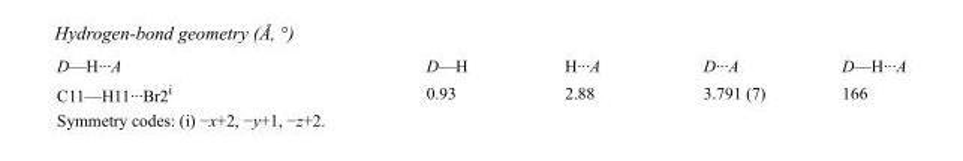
<table><tbody><tr><td>D—H···A</td><td>D—H</td><td>H···A</td><td>D···A</td><td>D—H···A</td></tr><tr><td>C11—H11···Br2<sup>i</sup></td><td>0.93</td><td>2.88</td><td>3.791 (7)</td><td>166</td></tr></tbody></table>